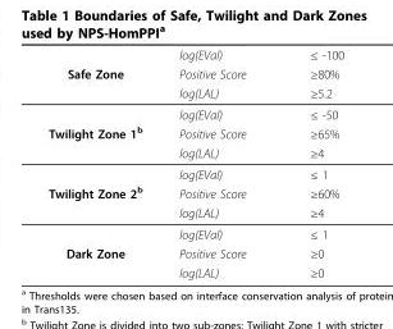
<table><thead><tr><td rowspan="3">Safe Zone</td><td rowspan="3">log(EVal) Positive Score log(LAL)</td><td rowspan="3">≤ -100 ≥80% ≥5.2</td></tr><tr></tr><tr></tr></thead><tbody><tr><td></td><td>log(EVal)</td><td>≤ -50</td></tr><tr><td rowspan="3">Twilight Zone 1<sup>b</sup></td><td>Positive Score</td><td>≥65%</td></tr><tr><td>log(LAL)</td><td>≥4</td></tr><tr><td>log(EVal)</td><td>≤ 1</td></tr><tr><td rowspan="3">Twilight Zone 2<sup>b</sup></td><td>Positive Score</td><td>≥60%</td></tr><tr><td>log(LAL)</td><td>≥4</td></tr><tr><td>log(EVal)</td><td>≤ 1</td></tr><tr><td rowspan="2">Dark Zone</td><td>Positive Score</td><td>≥0</td></tr><tr><td>log(LAL)</td><td>≥0</td></tr></tbody></table>